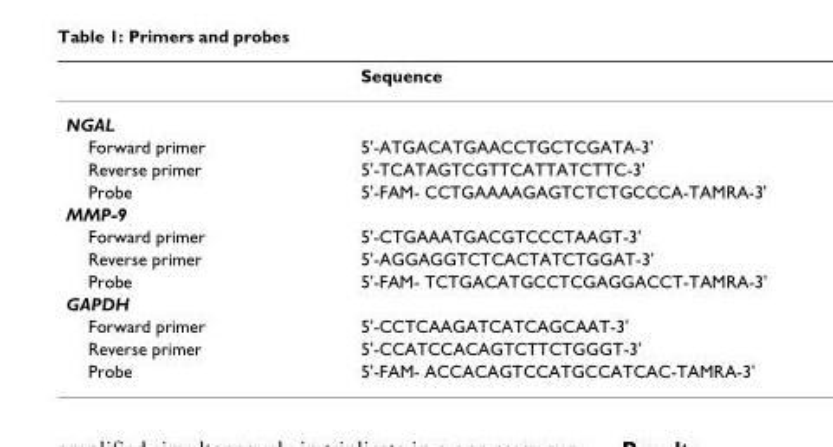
<table><thead><tr><td></td><td>Sequence</td></tr></thead><tbody><tr><td colspan="2">NGAL</td></tr><tr><td>Forward primer</td><td>5&#x27;-ATGACATGAACCTGCTCGATA-3&#x27;</td></tr><tr><td>Reverse primer</td><td>5&#x27;-TCATAGTCGTTCATTATCTTC-3&#x27;</td></tr><tr><td>Probe</td><td>5&#x27;-FAM- CCTGAAAAGAGTCTCTGCCCA-TAMRA-3&#x27;</td></tr><tr><td colspan="2">MMP-9</td></tr><tr><td>Forward primer</td><td>5&#x27;-CTGAAATGACGTCCCTAAGT-3&#x27;</td></tr><tr><td>Reverse primer</td><td>5&#x27;-AGGAGGTCTCACTATCTGGAT-3&#x27;</td></tr><tr><td>Probe</td><td>5&#x27;-FAM- TCTGACATGCCTCGAGGACCT-TAMRA-3&#x27;</td></tr><tr><td colspan="2">GAPDH</td></tr><tr><td>Forward primer</td><td>5&#x27;-CCTCAAGATCATCAGCAAT-3&#x27;</td></tr><tr><td>Reverse primer</td><td>5&#x27;-CCATCCACAGTCTTCTGGGT-3&#x27;</td></tr><tr><td>Probe</td><td>5&#x27;-FAM- ACCACAGTCCATGCCATCAC-TAMRA-3&#x27;</td></tr></tbody></table>